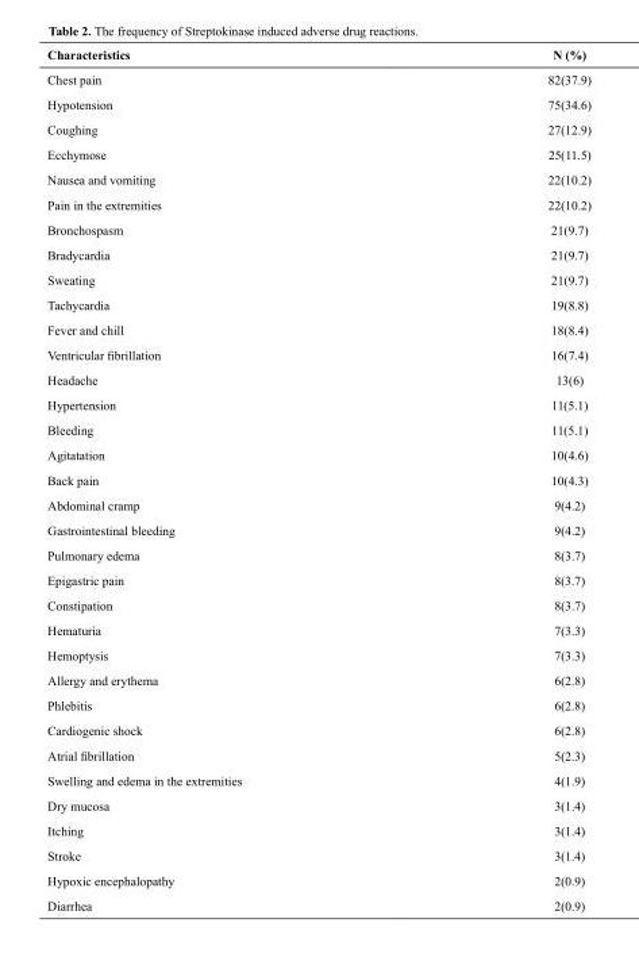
<table><thead><tr><td>Characteristics</td><td>N (%)</td></tr></thead><tbody><tr><td>Chest pain</td><td>82(37.9)</td></tr><tr><td>Hypotension</td><td>75(34.6)</td></tr><tr><td>Coughing</td><td>27(12.9)</td></tr><tr><td>Ecchymose</td><td>25(11.5)</td></tr><tr><td>Nausea and vomiting</td><td>22(10.2)</td></tr><tr><td>Pain in the extremities</td><td>22(10.2)</td></tr><tr><td>Bronchospasm</td><td>21(9.7)</td></tr><tr><td>Bradycardia</td><td>21(9.7)</td></tr><tr><td>Sweating</td><td>21(9.7)</td></tr><tr><td>Tachycardia</td><td>19(8.8)</td></tr><tr><td>Fever and chill</td><td>18(8.4)</td></tr><tr><td>Ventricular fibrillation</td><td>16(7.4)</td></tr><tr><td>Headache</td><td>13(6)</td></tr><tr><td>Hypertension</td><td>11(5.1)</td></tr><tr><td>Bleeding</td><td>11(5.1)</td></tr><tr><td>Agitatation</td><td>10(4.6)</td></tr><tr><td>Back pain</td><td>10(4.3)</td></tr><tr><td>Abdominal cramp</td><td>9(4.2)</td></tr><tr><td>Gastrointestinal bleeding</td><td>9(4.2)</td></tr><tr><td>Pulmonary edema</td><td>8(3.7)</td></tr><tr><td>Epigastric pain</td><td>8(3.7)</td></tr><tr><td>Constipation</td><td>8(3.7)</td></tr><tr><td>Hematuria</td><td>7(3.3)</td></tr><tr><td>Hemoptysis</td><td>7(3.3)</td></tr><tr><td>Allergy and erythema</td><td>6(2.8)</td></tr><tr><td>Phlebitis</td><td>6(2.8)</td></tr><tr><td>Cardiogenic shock</td><td>6(2.8)</td></tr><tr><td>Atrial fibrillation</td><td>5(2.3)</td></tr><tr><td>Swelling and edema in the extremities</td><td>4(1.9)</td></tr><tr><td>Dry mucosa</td><td>3(1.4)</td></tr><tr><td>Itching</td><td>3(1.4)</td></tr><tr><td>Stroke</td><td>3(1.4)</td></tr><tr><td>Hypoxic encephalopathy</td><td>2(0.9)</td></tr><tr><td>Diarrhea</td><td>2(0.9)</td></tr></tbody></table>